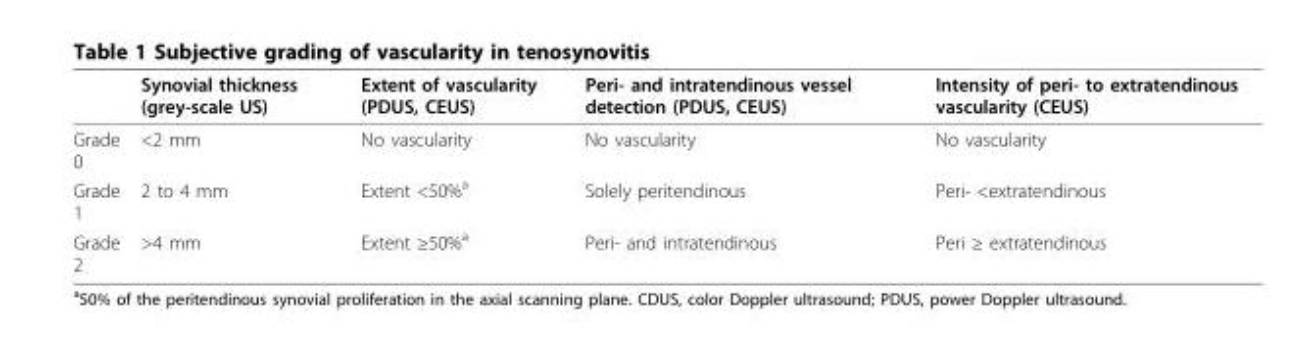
<table><thead><tr><td></td><td>Synovial thickness (grey-scale US)</td><td>Extent of vascularity (PDUS, CEUS)</td><td>Peri- and intratendinous vessel detection (PDUS, CEUS)</td><td>Intensity of peri- to extratendinous vascularity (CEUS)</td></tr></thead><tbody><tr><td>Grade 0</td><td>&lt;2 mm</td><td>No vascularity</td><td>No vascularity</td><td>No vascularity</td></tr><tr><td>Grade 1</td><td>2 to 4 mm</td><td>Extent &lt;50%<sup>a</sup></td><td>Solely peritendinous</td><td>Peri- &lt;extratendinous</td></tr><tr><td>Grade 2</td><td>&gt;4 mm</td><td>Extent ≥50%<sup>a</sup></td><td>Peri- and intratendinous</td><td>Peri ≥ extratendinous</td></tr></tbody></table>